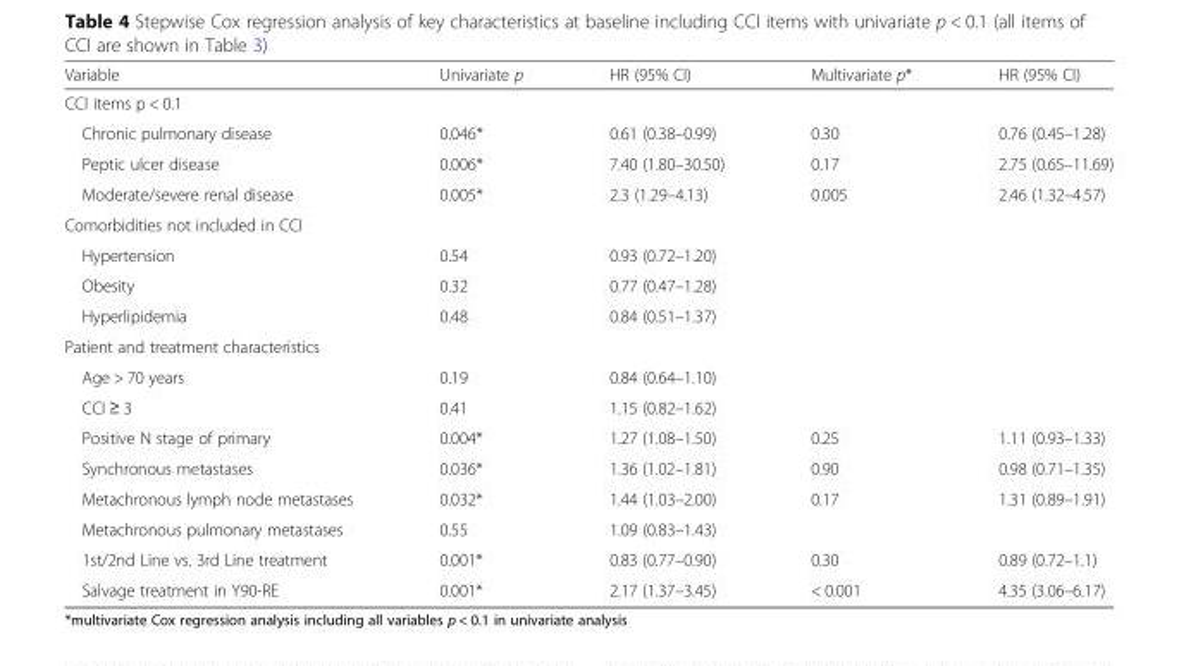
<table><thead><tr><td>Variable</td><td>Univariate p</td><td>HR (95% CI)</td><td>Multivariate p*</td><td>HR (95% CI)</td></tr></thead><tbody><tr><td colspan="5">CCI items p &lt; 0.1</td></tr><tr><td>Chronic pulmonary disease</td><td>0.046*</td><td>0.61 (0.38–0.99)</td><td>0.30</td><td>0.76 (0.45–1.28)</td></tr><tr><td>Peptic ulcer disease</td><td>0.006*</td><td>7.40 (1.80–30.50)</td><td>0.17</td><td>2.75 (0.65–11.69)</td></tr><tr><td>Moderate/severe renal disease</td><td>0.005*</td><td>2.3 (1.29–4.13)</td><td>0.005</td><td>2.46 (1.32–4.57)</td></tr><tr><td colspan="5">Comorbidities not included in CCI</td></tr><tr><td>Hypertension</td><td>0.54</td><td>0.93 (0.72–1.20)</td><td></td><td></td></tr><tr><td>Obesity</td><td>0.32</td><td>0.77 (0.47–1.28)</td><td></td><td></td></tr><tr><td>Hyperlipidemia</td><td>0.48</td><td>0.84 (0.51–1.37)</td><td></td><td></td></tr><tr><td colspan="5">Patient and treatment characteristics</td></tr><tr><td>Age &gt; 70 years</td><td>0.19</td><td>0.84 (0.64–1.10)</td><td></td><td></td></tr><tr><td>CCI ≥ 3</td><td>0.41</td><td>1.15 (0.82–1.62)</td><td></td><td></td></tr><tr><td>Positive N stage of primary</td><td>0.004*</td><td>1.27 (1.08–1.50)</td><td>0.25</td><td>1.11 (0.93–1.33)</td></tr><tr><td>Synchronous metastases</td><td>0.036*</td><td>1.36 (1.02–1.81)</td><td>0.90</td><td>0.98 (0.71–1.35)</td></tr><tr><td>Metachronous lymph node metastases</td><td>0.032*</td><td>1.44 (1.03–2.00)</td><td>0.17</td><td>1.31 (0.89–1.91)</td></tr><tr><td>Metachronous pulmonary metastases</td><td>0.55</td><td>1.09 (0.83–1.43)</td><td></td><td></td></tr><tr><td>1st/2nd Line vs. 3rd Line treatment</td><td>0.001*</td><td>0.83 (0.77–0.90)</td><td>0.30</td><td>0.89 (0.72–1.1)</td></tr><tr><td>Salvage treatment in Y90-RE</td><td>0.001*</td><td>2.17 (1.37–3.45)</td><td>&lt; 0.001</td><td>4.35 (3.06–6.17)</td></tr></tbody></table>